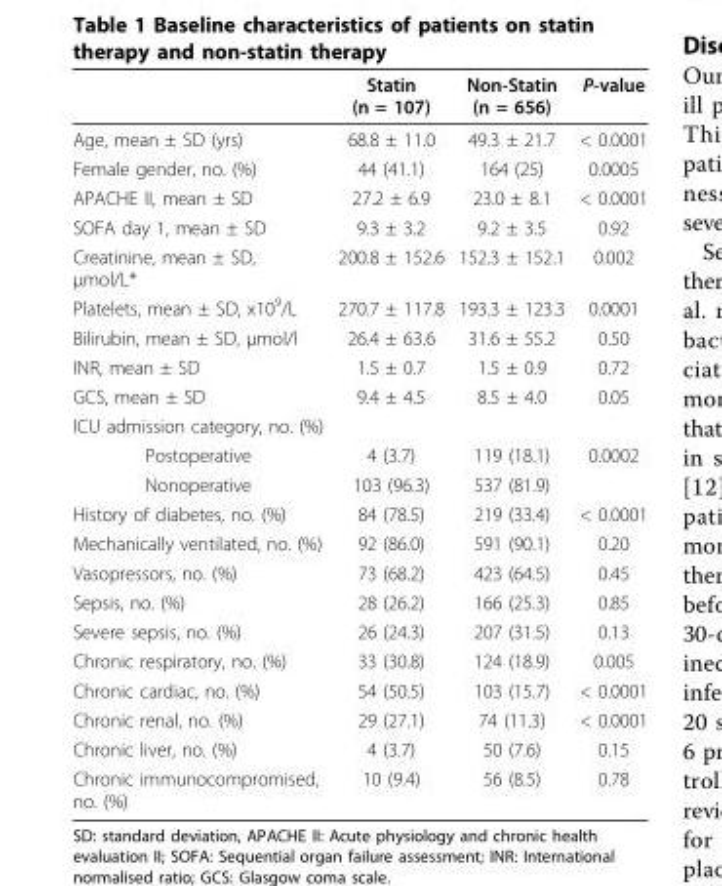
<table><thead><tr><td></td><td>Statin (n = 107)</td><td>Non-Statin (n = 656)</td><td>P-value</td></tr></thead><tbody><tr><td>Age, mean ± SD (yrs)</td><td>68.8 ± 11.0</td><td>49.3 ± 21.7</td><td>&lt; 0.0001</td></tr><tr><td>Female gender, no. (%)</td><td>44 (41.1)</td><td>164 (25)</td><td>0.0005</td></tr><tr><td>APACHE II, mean ± SD</td><td>27.2 ± 6.9</td><td>23.0 ± 8.1</td><td>&lt; 0.0001</td></tr><tr><td>SOFA day 1, mean ± SD</td><td>9.3 ± 3.2</td><td>9.2 ± 3.5</td><td>0.92</td></tr><tr><td>Creatinine, mean ± SD, μmol/L*</td><td>200.8 ± 152.6</td><td>152.3 ± 152.1</td><td>0.002</td></tr><tr><td>Platelets, mean ± SD, x10<sup>9</sup>/L</td><td>270.7 ± 117.8</td><td>193.3 ± 123.3</td><td>0.0001</td></tr><tr><td>Bilirubin, mean ± SD, μmol/l</td><td>26.4 ± 63.6</td><td>31.6 ± 55.2</td><td>0.50</td></tr><tr><td>INR, mean ± SD</td><td>1.5 ± 0.7</td><td>1.5 ± 0.9</td><td>0.72</td></tr><tr><td>GCS, mean ± SD</td><td>9.4 ± 4.5</td><td>8.5 ± 4.0</td><td>0.05</td></tr><tr><td colspan="4">ICU admission category, no. (%)</td></tr><tr><td>Postoperative</td><td>4 (3.7)</td><td>119 (18.1)</td><td>0.0002</td></tr><tr><td>Nonoperative</td><td>103 (96.3)</td><td>537 (81.9)</td><td></td></tr><tr><td>History of diabetes, no. (%)</td><td>84 (78.5)</td><td>219 (33.4)</td><td>&lt; 0.0001</td></tr><tr><td>Mechanically ventilated, no. (%)</td><td>92 (86.0)</td><td>591 (90.1)</td><td>0.20</td></tr><tr><td>Vasopressors, no. (%)</td><td>73 (68.2)</td><td>423 (64.5)</td><td>0.45</td></tr><tr><td>Sepsis, no. (%)</td><td>28 (26.2)</td><td>166 (25.3)</td><td>0.85</td></tr><tr><td>Severe sepsis, no. (%)</td><td>26 (24.3)</td><td>207 (31.5)</td><td>0.13</td></tr><tr><td>Chronic respiratory, no. (%)</td><td>33 (30.8)</td><td>124 (18.9)</td><td>0.005</td></tr><tr><td>Chronic cardiac, no. (%)</td><td>54 (50.5)</td><td>103 (15.7)</td><td>&lt; 0.0001</td></tr><tr><td>Chronic renal, no. (%)</td><td>29 (27.1)</td><td>74 (11.3)</td><td>&lt; 0.0001</td></tr><tr><td>Chronic liver, no. (%)</td><td>4 (3.7)</td><td>50 (7.6)</td><td>0.15</td></tr><tr><td>Chronic immunocompromised, no. (%)</td><td>10 (9.4)</td><td>56 (8.5)</td><td>0.78</td></tr></tbody></table>